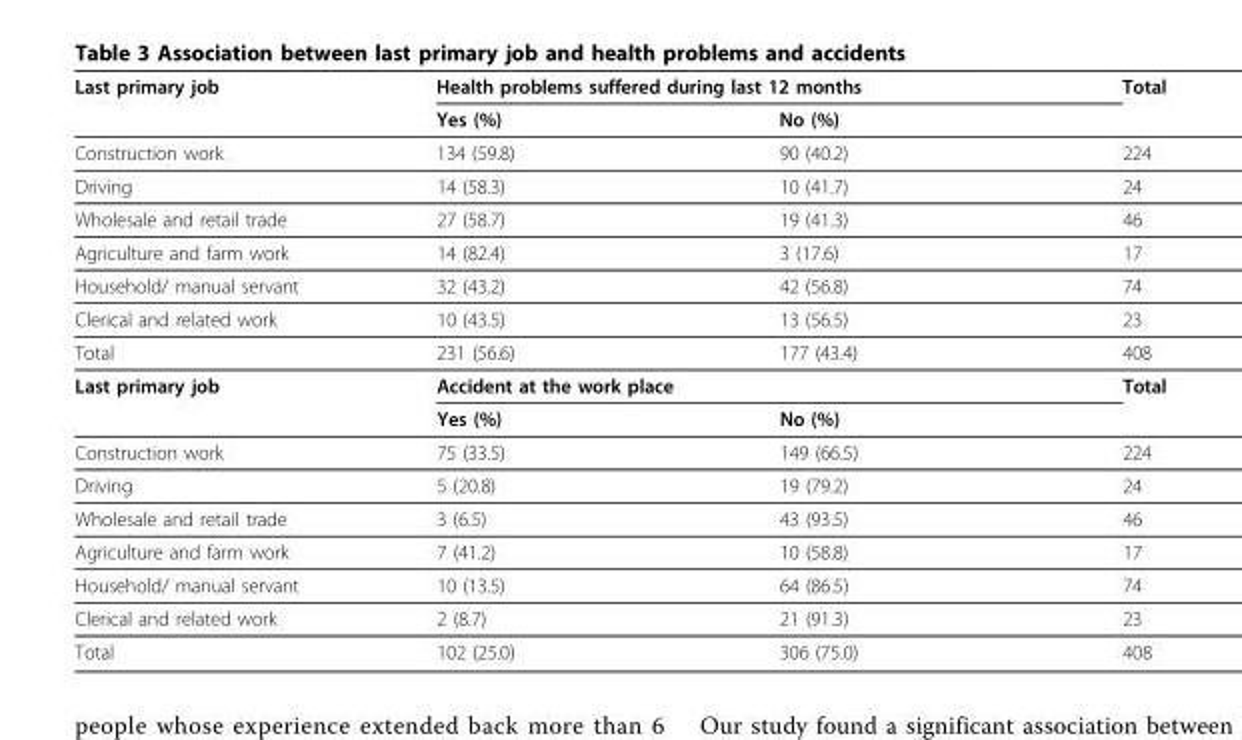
<table><thead><tr><td rowspan="2">Last primary job</td><td colspan="2">Health problems suffered during last 12 months</td><td rowspan="2">Total</td></tr><tr><td>Yes (%)</td><td>No (%)</td></tr></thead><tbody><tr><td>Construction work</td><td>134 (59.8)</td><td>90 (40.2)</td><td>224</td></tr><tr><td>Driving</td><td>14 (58.3)</td><td>10 (41.7)</td><td>24</td></tr><tr><td>Wholesale and retail trade</td><td>27 (58.7)</td><td>19 (41.3)</td><td>46</td></tr><tr><td>Agriculture and farm work</td><td>14 (82.4)</td><td>3 (17.6)</td><td>17</td></tr><tr><td>Household/ manual servant</td><td>32 (43.2)</td><td>42 (56.8)</td><td>74</td></tr><tr><td>Clerical and related work</td><td>10 (43.5)</td><td>13 (56.5)</td><td>23</td></tr><tr><td>Total</td><td>231 (56.6)</td><td>177 (43.4)</td><td>408</td></tr><tr><td rowspan="2">Last primary job</td><td colspan="2">Accident at the work place</td><td>Total</td></tr><tr><td>Yes (%)</td><td>No (%)</td><td></td></tr><tr><td>Construction work</td><td>75 (33.5)</td><td>149 (66.5)</td><td>224</td></tr><tr><td>Driving</td><td>5 (20.8)</td><td>19 (79.2)</td><td>24</td></tr><tr><td>Wholesale and retail trade</td><td>3 (6.5)</td><td>43 (93.5)</td><td>46</td></tr><tr><td>Agriculture and farm work</td><td>7 (41.2)</td><td>10 (58.8)</td><td>17</td></tr><tr><td>Household/ manual servant</td><td>10 (13.5)</td><td>64 (86.5)</td><td>74</td></tr><tr><td>Clerical and related work</td><td>2 (8.7)</td><td>21 (91.3)</td><td>23</td></tr><tr><td>Total</td><td>102 (25.0)</td><td>306 (75.0)</td><td>408</td></tr></tbody></table>